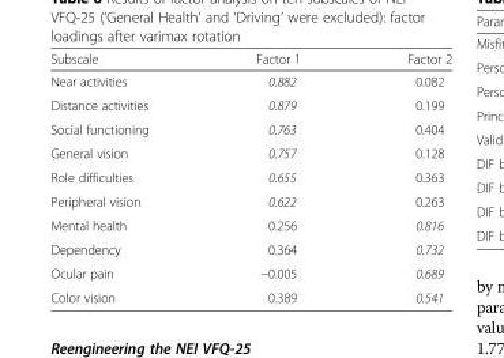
<table><thead><tr><td>Subscale</td><td>Factor 1</td><td>Factor 2</td></tr></thead><tbody><tr><td>Near activities</td><td>0.882</td><td>0.082</td></tr><tr><td>Distance activities</td><td>0.879</td><td>0.199</td></tr><tr><td>Social functioning</td><td>0.763</td><td>0.404</td></tr><tr><td>General vision</td><td>0.757</td><td>0.128</td></tr><tr><td>Role difficulties</td><td>0.655</td><td>0.363</td></tr><tr><td>Peripheral vision</td><td>0.622</td><td>0.263</td></tr><tr><td>Mental health</td><td>0.256</td><td>0.816</td></tr><tr><td>Dependency</td><td>0.364</td><td>0.732</td></tr><tr><td>Ocular pain</td><td>−0.005</td><td>0.689</td></tr><tr><td>Color vision</td><td>0.389</td><td>0.541</td></tr></tbody></table>